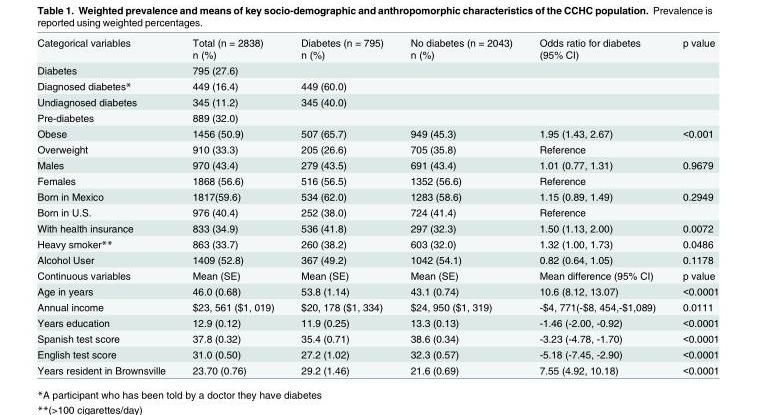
<table><tbody><tr><td>Categorical variables</td><td>Total (n = 2838) n (%)</td><td>Diabetes (n = 795) n (%)</td><td>No diabetes (n = 2043) n (%)</td><td>Odds ratio for diabetes (95% CI)</td><td>p value</td></tr><tr><td>Diabetes</td><td>795 (27.6)</td><td></td><td></td><td></td><td></td></tr><tr><td>Diagnosed diabetes*</td><td>449 (16.4)</td><td>449 (60.0)</td><td></td><td></td><td></td></tr><tr><td>Undiagnosed diabetes</td><td>345 (11.2)</td><td>345 (40.0)</td><td></td><td></td><td></td></tr><tr><td>Pre-diabetes</td><td>889 (32.0)</td><td></td><td></td><td></td><td></td></tr><tr><td>Obese</td><td>1456 (50.9)</td><td>507 (65.7)</td><td>949 (45.3)</td><td>1.95 (1.43, 2.67)</td><td>&lt;0.001</td></tr><tr><td>Overweight</td><td>910 (33.3)</td><td>205 (26.6)</td><td>705 (35.8)</td><td>Reference</td><td></td></tr><tr><td>Males</td><td>970 (43.4)</td><td>279 (43.5)</td><td>691 (43.4)</td><td>1.01 (0.77, 1.31)</td><td>0.9679</td></tr><tr><td>Females</td><td>1868 (56.6)</td><td>516 (56.5)</td><td>1352 (56.6)</td><td>Reference</td><td></td></tr><tr><td>Born in Mexico</td><td>1817(59.6)</td><td>534 (62.0)</td><td>1283 (58.6)</td><td>1.15 (0.89, 1.49)</td><td>0.2949</td></tr><tr><td>Born in U.S.</td><td>976 (40.4)</td><td>252 (38.0)</td><td>724 (41.4)</td><td>Reference</td><td></td></tr><tr><td>With health insurance</td><td>833 (34.9)</td><td>536 (41.8)</td><td>297 (32.3)</td><td>1.50 (1.13, 2.00)</td><td>0.0072</td></tr><tr><td>Heavy smoker**</td><td>863 (33.7)</td><td>260 (38.2)</td><td>603 (32.0)</td><td>1.32 (1.00, 1.73)</td><td>0.0486</td></tr><tr><td>Alcohol User</td><td>1409 (52.8)</td><td>367 (49.2)</td><td>1042 (54.1)</td><td>0.82 (0.64, 1.05)</td><td>0.1178</td></tr><tr><td>Continuous variables</td><td>Mean (SE)</td><td>Mean (SE)</td><td>Mean (SE)</td><td>Mean difference (95% CI)</td><td>p value</td></tr><tr><td>Age in years</td><td>46.0 (0.68)</td><td>53.8 (1.14)</td><td>43.1 (0.74)</td><td>10.6 (8.12, 13.07)</td><td>&lt;0.0001</td></tr><tr><td>Annual income</td><td>$23, 561 ($1, 019)</td><td>$20, 178 ($1, 334)</td><td>$24, 950 ($1, 319)</td><td>-$4, 771(-$8, 454,-$1,089)</td><td>0.0111</td></tr><tr><td>Years education</td><td>12.9 (0.12)</td><td>11.9 (0.25)</td><td>13.3 (0.13)</td><td>-1.46 (-2.00, -0.92)</td><td>&lt;0.0001</td></tr><tr><td>Spanish test score</td><td>37.8 (0.32)</td><td>35.4 (0.71)</td><td>38.6 (0.34)</td><td>-3.23 (-4.78, -1.70)</td><td>&lt;0.0001</td></tr><tr><td>English test score</td><td>31.0 (0.50)</td><td>27.2 (1.02)</td><td>32.3 (0.57)</td><td>-5.18 (-7.45, -2.90)</td><td>&lt;0.0001</td></tr><tr><td>Years resident in Brownsville</td><td>23.70 (0.76)</td><td>29.2 (1.46)</td><td>21.6 (0.69)</td><td>7.55 (4.92, 10.18)</td><td>&lt;0.0001</td></tr></tbody></table>